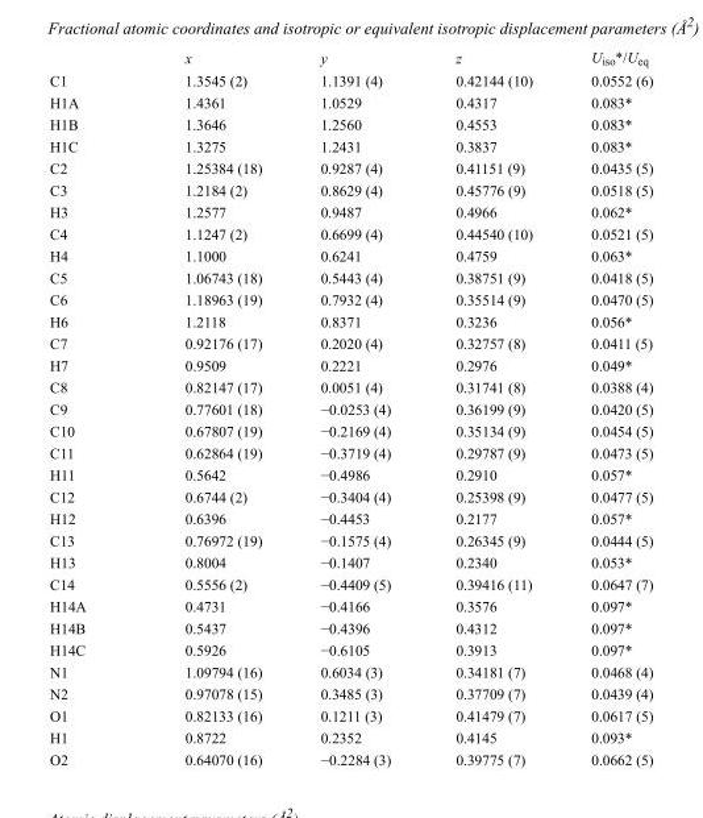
<table><thead><tr><td></td><td>x</td><td>y</td><td>z</td><td>U<sub>iso</sub>*/U<sub>eq</sub></td></tr></thead><tbody><tr><td>C1</td><td>1.3545 (2)</td><td>1.1391 (4)</td><td>0.42144 (10)</td><td>0.0552 (6)</td></tr><tr><td>H1A</td><td>1.4361</td><td>1.0529</td><td>0.4317</td><td>0.083*</td></tr><tr><td>H1B</td><td>1.3646</td><td>1.2560</td><td>0.4553</td><td>0.083*</td></tr><tr><td>H1C</td><td>1.3275</td><td>1.2431</td><td>0.3837</td><td>0.083*</td></tr><tr><td>C2</td><td>1.25384 (18)</td><td>0.9287 (4)</td><td>0.41151 (9)</td><td>0.0435 (5)</td></tr><tr><td>C3</td><td>1.2184 (2)</td><td>0.8629 (4)</td><td>0.45776 (9)</td><td>0.0518 (5)</td></tr><tr><td>H3</td><td>1.2577</td><td>0.9487</td><td>0.4966</td><td>0.062*</td></tr><tr><td>C4</td><td>1.1247 (2)</td><td>0.6699 (4)</td><td>0.44540 (10)</td><td>0.0521 (5)</td></tr><tr><td>H4</td><td>1.1000</td><td>0.6241</td><td>0.4759</td><td>0.063*</td></tr><tr><td>C5</td><td>1.06743 (18)</td><td>0.5443 (4)</td><td>0.38751 (9)</td><td>0.0418 (5)</td></tr><tr><td>C6</td><td>1.18963 (19)</td><td>0.7932 (4)</td><td>0.35514 (9)</td><td>0.0470 (5)</td></tr><tr><td>H6</td><td>1.2118</td><td>0.8371</td><td>0.3236</td><td>0.056*</td></tr><tr><td>C7</td><td>0.92176 (17)</td><td>0.2020 (4)</td><td>0.32757 (8)</td><td>0.0411 (5)</td></tr><tr><td>H7</td><td>0.9509</td><td>0.2221</td><td>0.2976</td><td>0.049*</td></tr><tr><td>C8</td><td>0.82147 (17)</td><td>0.0051 (4)</td><td>0.31741 (8)</td><td>0.0388 (4)</td></tr><tr><td>C9</td><td>0.77601 (18)</td><td>−0.0253 (4)</td><td>0.36199 (9)</td><td>0.0420 (5)</td></tr><tr><td>C10</td><td>0.67807 (19)</td><td>−0.2169 (4)</td><td>0.35134 (9)</td><td>0.0454 (5)</td></tr><tr><td>C11</td><td>0.62864 (19)</td><td>−0.3719 (4)</td><td>0.29787 (9)</td><td>0.0473 (5)</td></tr><tr><td>H11</td><td>0.5642</td><td>−0.4986</td><td>0.2910</td><td>0.057*</td></tr><tr><td>C12</td><td>0.6744 (2)</td><td>−0.3404 (4)</td><td>0.25398 (9)</td><td>0.0477 (5)</td></tr><tr><td>H12</td><td>0.6396</td><td>−0.4453</td><td>0.2177</td><td>0.057*</td></tr><tr><td>C13</td><td>0.76972 (19)</td><td>−0.1575 (4)</td><td>0.26345 (9)</td><td>0.0444 (5)</td></tr><tr><td>H13</td><td>0.8004</td><td>−0.1407</td><td>0.2340</td><td>0.053*</td></tr><tr><td>C14</td><td>0.5556 (2)</td><td>−0.4409 (5)</td><td>0.39416 (11)</td><td>0.0647 (7)</td></tr><tr><td>H14A</td><td>0.4731</td><td>−0.4166</td><td>0.3576</td><td>0.097*</td></tr><tr><td>H14B</td><td>0.5437</td><td>−0.4396</td><td>0.4312</td><td>0.097*</td></tr><tr><td>H14C</td><td>0.5926</td><td>−0.6105</td><td>0.3913</td><td>0.097*</td></tr><tr><td>N1</td><td>1.09794 (16)</td><td>0.6034 (3)</td><td>0.34181 (7)</td><td>0.0468 (4)</td></tr><tr><td>N2</td><td>0.97078 (15)</td><td>0.3485 (3)</td><td>0.37709 (7)</td><td>0.0439 (4)</td></tr><tr><td>O1</td><td>0.82133 (16)</td><td>0.1211 (3)</td><td>0.41479 (7)</td><td>0.0617 (5)</td></tr><tr><td>H1</td><td>0.8722</td><td>0.2352</td><td>0.4145</td><td>0.093*</td></tr><tr><td>O2</td><td>0.64070 (16)</td><td>−0.2284 (3)</td><td>0.39775 (7)</td><td>0.0662 (5)</td></tr></tbody></table>